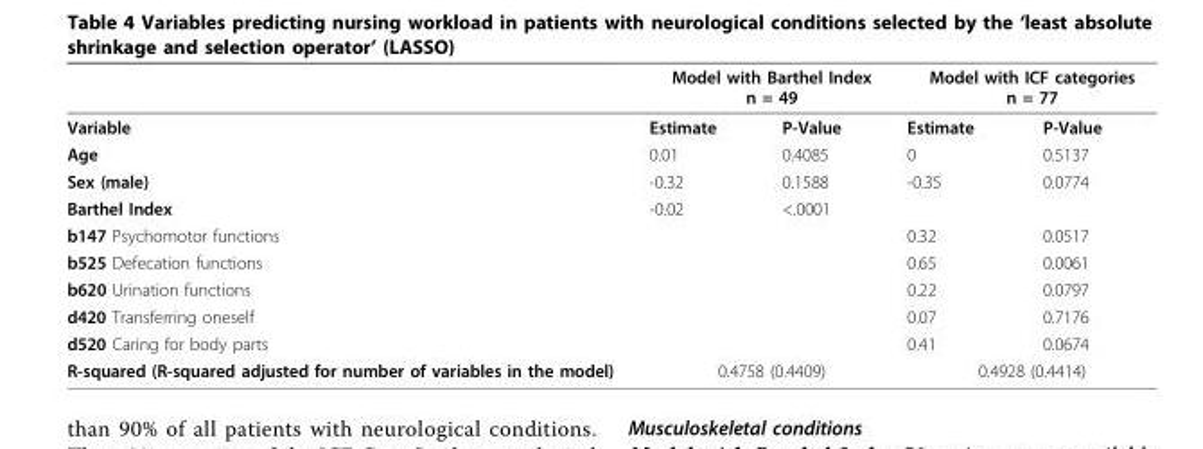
<table><thead><tr><td rowspan="2">Variable</td><td colspan="2">Model with Barthel Index n = 49</td><td colspan="2">Model with ICF categories n = 77</td></tr><tr><td>Estimate</td><td>P-Value</td><td>Estimate</td><td>P-Value</td></tr></thead><tbody><tr><td>Age</td><td>0.01</td><td>0.4085</td><td>0</td><td>0.5137</td></tr><tr><td>Sex (male)</td><td>-0.32</td><td>0.1588</td><td>-0.35</td><td>0.0774</td></tr><tr><td>Barthel Index</td><td>-0.02</td><td>&lt;.0001</td><td></td><td></td></tr><tr><td>b147 Psychomotor functions</td><td></td><td></td><td>0.32</td><td>0.0517</td></tr><tr><td>b525 Defecation functions</td><td></td><td></td><td>0.65</td><td>0.0061</td></tr><tr><td>b620 Urination functions</td><td></td><td></td><td>0.22</td><td>0.0797</td></tr><tr><td>d420 Transferring oneself</td><td></td><td></td><td>0.07</td><td>0.7176</td></tr><tr><td>d520 Caring for body parts</td><td></td><td></td><td>0.41</td><td>0.0674</td></tr><tr><td>R-squared (R-squared adjusted for number of variables in the model)</td><td colspan="2">0.4758 (0.4409)</td><td colspan="2">0.4928 (0.4414)</td></tr></tbody></table>